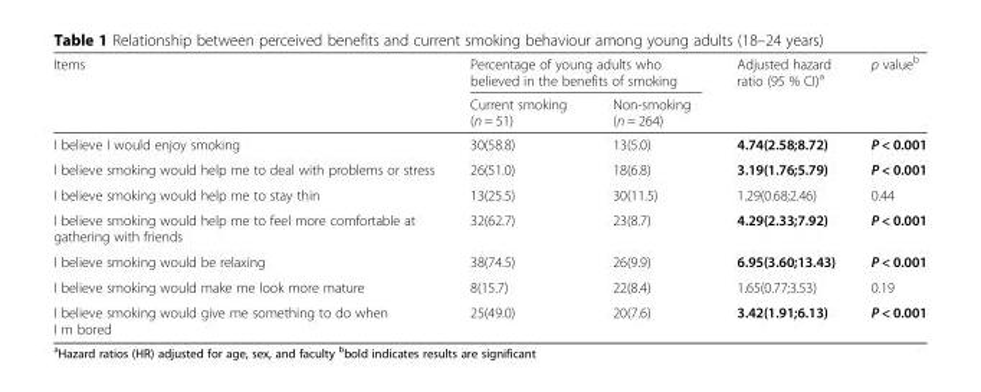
<table><thead><tr><td rowspan="2">Items</td><td colspan="2">Percentage of young adults who believed in the benefits of smoking</td><td rowspan="2">Adjusted hazard ratio (95 % CI)<sup>a</sup></td><td rowspan="2">p value<sup>b</sup></td></tr><tr><td>Current smoking (n = 51)</td><td>Non-smoking (n = 264)</td></tr></thead><tbody><tr><td>I believe I would enjoy smoking</td><td>30(58.8)</td><td>13(5.0)</td><td>4.74(2.58;8.72)</td><td>P &lt; 0.001</td></tr><tr><td>I believe smoking would help me to deal with problems or stress</td><td>26(51.0)</td><td>18(6.8)</td><td>3.19(1.76;5.79)</td><td>P &lt; 0.001</td></tr><tr><td>I believe smoking would help me to stay thin</td><td>13(25.5)</td><td>30(11.5)</td><td>1.29(0.68;2.46)</td><td>0.44</td></tr><tr><td>I believe smoking would help me to feel more comfortable at gathering with friends</td><td>32(62.7)</td><td>23(8.7)</td><td>4.29(2.33;7.92)</td><td>P &lt; 0.001</td></tr><tr><td>I believe smoking would be relaxing</td><td>38(74.5)</td><td>26(9.9)</td><td>6.95(3.60;13.43)</td><td>P &lt; 0.001</td></tr><tr><td>I believe smoking would make me look more mature</td><td>8(15.7)</td><td>22(8.4)</td><td>1.65(0.77;3.53)</td><td>0.19</td></tr><tr><td>I believe smoking would give me something to do when I m bored</td><td>25(49.0)</td><td>20(7.6)</td><td>3.42(1.91;6.13)</td><td>P &lt; 0.001</td></tr></tbody></table>